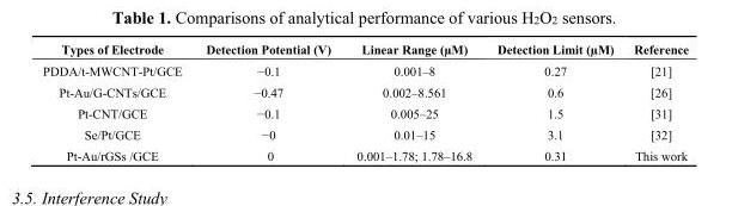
<table><thead><tr><td>Types of Electrode</td><td>Detection Potential (V)</td><td>Linear Range (µM)</td><td>Detection Limit (µM)</td><td>Reference</td></tr></thead><tbody><tr><td>PDDA/t-MWCNT-Pt/GCE</td><td>−0.1</td><td>0.001–8</td><td>0.27</td><td>[21]</td></tr><tr><td>Pt-Au/G-CNTs/GCE</td><td>−0.47</td><td>0.002–8.561</td><td>0.6</td><td>[26]</td></tr><tr><td>Pt-CNT/GCE</td><td>−0.1</td><td>0.005–25</td><td>1.5</td><td>[31]</td></tr><tr><td>Se/Pt/GCE</td><td>−0</td><td>0.01–15</td><td>3.1</td><td>[32]</td></tr><tr><td>Pt-Au/rGSs /GCE</td><td>-0</td><td>0.001–1.78; 1.78–16.8</td><td>0.31</td><td>This work</td></tr></tbody></table>